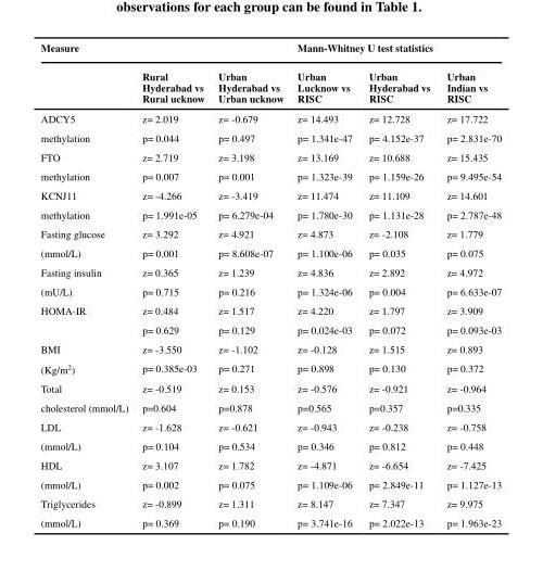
<table><thead><tr><td rowspan="2">Measure</td><td rowspan="2">Rural Hyderabad vs Rural ucknow</td><td rowspan="2">Urban Hyderabad vs Urban ucknow</td><td colspan="2">Mann-Whitney U test statistics</td><td rowspan="2">Urban Indian vs RISC</td></tr><tr><td>Urban Lucknow vs RISC</td><td>Urban Hyderabad vs RISC</td></tr></thead><tbody><tr><td>ADCY5</td><td>z= 2.019</td><td>z= -0.679</td><td>z= 14.493</td><td>z= 12.728</td><td>z= 17.722</td></tr><tr><td>methylation</td><td>p= 0.044</td><td>p= 0.497</td><td>p= 1.341e-47</td><td>p= 4.152e-37</td><td>p= 2.831e-70</td></tr><tr><td>FTO</td><td>z= 2.719</td><td>z= 3.198</td><td>z= 13.169</td><td>z= 10.688</td><td>z= 15.435</td></tr><tr><td>methylation</td><td>p= 0.007</td><td>p= 0.001</td><td>p= 1.323e-39</td><td>p= 1.159e-26</td><td>p= 9.495e-54</td></tr><tr><td>KCNJ11</td><td>z= -4.266</td><td>z= -3.419</td><td>z= 11.474</td><td>z= 11.109</td><td>z= 14.601</td></tr><tr><td>methylation</td><td>p= 1.991e-05</td><td>p= 6.279e-04</td><td>p= 1.780e-30</td><td>p= 1.131e-28</td><td>p= 2.787e-48</td></tr><tr><td>Fasting glucose</td><td>z= 3.292</td><td>z= 4.921</td><td>z= 4.873</td><td>z= -2.108</td><td>z= 1.779</td></tr><tr><td>(mmol/L)</td><td>p= 0.001</td><td>p= 8.608e-07</td><td>p= 1.100e-06</td><td>p= 0.035</td><td>p= 0.075</td></tr><tr><td>Fasting insulin</td><td>z= 0.365</td><td>z= 1.239</td><td>z= 4.836</td><td>z= 2.892</td><td>z= 4.972</td></tr><tr><td>(mU/L)</td><td>p= 0.715</td><td>p= 0.216</td><td>p= 1.324e-06</td><td>p= 0.004</td><td>p= 6.633e-07</td></tr><tr><td rowspan="2">HOMA-IR</td><td>z= 0.484</td><td>z= 1.517</td><td>z= 4.220</td><td>z= 1.797</td><td>z= 3.909</td></tr><tr><td>p= 0.629</td><td>p= 0.129</td><td>p= 0.024e-03</td><td>p= 0.072</td><td>p= 0.093e-03</td></tr><tr><td>BMI</td><td>z= -3.550</td><td>z= -1.102</td><td>z= -0.128</td><td>z= 1.515</td><td>z= 0.893</td></tr><tr><td>(Kg/m<sup>2</sup>)</td><td>p= 0.385e-03</td><td>p= 0.271</td><td>p= 0.898</td><td>p= 0.130</td><td>p= 0.372</td></tr><tr><td>Total</td><td>z= -0.519</td><td>z= 0.153</td><td>z= -0.576</td><td>z= -0.921</td><td>z= -0.964</td></tr><tr><td>cholesterol (mmol/L)</td><td>p=0.604</td><td>p=0.878</td><td>p=0.565</td><td>p=0.357</td><td>p=0.335</td></tr><tr><td>LDL</td><td>z= -1.628</td><td>z= -0.621</td><td>z= -0.943</td><td>z= -0.238</td><td>z= -0.758</td></tr><tr><td>(mmol/L)</td><td>p= 0.104</td><td>p= 0.534</td><td>p= 0.346</td><td>p= 0.812</td><td>p= 0.448</td></tr><tr><td>HDL</td><td>z= 3.107</td><td>z= 1.782</td><td>z= -4.871</td><td>z= -6.654</td><td>z= -7.425</td></tr><tr><td>(mmol/L)</td><td>p= 0.002</td><td>p= 0.075</td><td>p= 1.109e-06</td><td>p= 2.849e-11</td><td>p= 1.127e-13</td></tr><tr><td>Triglycerides</td><td>z= -0.899</td><td>z= 1.311</td><td>z= 8.147</td><td>z= 7.347</td><td>z= 9.975</td></tr><tr><td>(mmol/L)</td><td>p= 0.369</td><td>p= 0.190</td><td>p= 3.741e-16</td><td>p= 2.022e-13</td><td>p= 1.963e-23</td></tr></tbody></table>